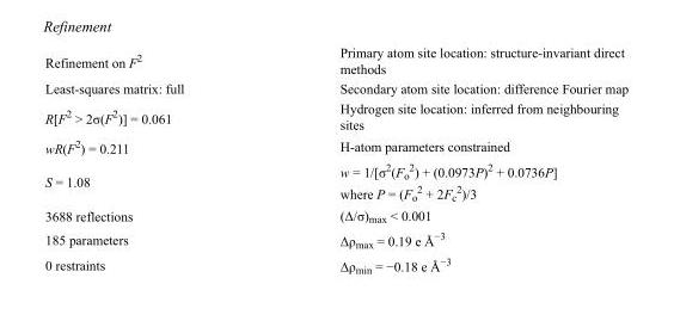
<table><tbody><tr><td>Refinement on F<sup>2</sup></td><td>Primary atom site location: structure-invariant direct methods</td></tr><tr><td>Least-squares matrix: full</td><td>Secondary atom site location: difference Fourier map</td></tr><tr><td>R[F<sup>2</sup> &gt; 2σ(F<sup>2</sup>)] = 0.061</td><td>Hydrogen site location: inferred from neighbouring sites</td></tr><tr><td>wR(F<sup>2</sup>) = 0.211</td><td>H-atom parameters constrained</td></tr><tr><td>S = 1.08</td><td>w = 1/[σ<sup>2</sup>(F<sub>o</sub> <sup>2</sup>) + (0.0973P)<sup>2</sup> + 0.0736P] where P = (F<sub>o</sub> <sup>2</sup> + 2F<sub>c</sub> <sup>2</sup>)/3</td></tr><tr><td>3688 reflections</td><td>(Δ/σ)<sub>max</sub> &lt; 0.001</td></tr><tr><td>185 parameters</td><td>Δρ<sub>max</sub> = 0.19 e Å<sup>−3</sup></td></tr><tr><td>0 restraints</td><td>Δρ<sub>min</sub> = −0.18 e Å<sup>−3</sup></td></tr></tbody></table>